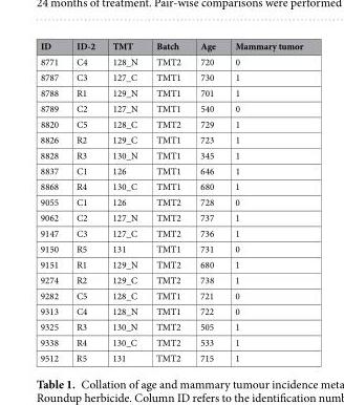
<table><thead><tr><td>ID</td><td>ID-2</td><td>TMT</td><td>Batch</td><td>Age</td><td>Mammary tumor</td></tr></thead><tbody><tr><td>8771</td><td>C4</td><td>128_N</td><td>TMT2</td><td>720</td><td>0</td></tr><tr><td>8787</td><td>C3</td><td>127_C</td><td>TMT1</td><td>730</td><td>1</td></tr><tr><td>8788</td><td>R1</td><td>129_N</td><td>TMT1</td><td>701</td><td>1</td></tr><tr><td>8789</td><td>C2</td><td>127_N</td><td>TMT1</td><td>540</td><td>0</td></tr><tr><td>8820</td><td>C5</td><td>128_C</td><td>TMT2</td><td>729</td><td>1</td></tr><tr><td>8826</td><td>R2</td><td>129_C</td><td>TMT1</td><td>723</td><td>1</td></tr><tr><td>8828</td><td>R3</td><td>130_N</td><td>TMT1</td><td>345</td><td>1</td></tr><tr><td>8837</td><td>C1</td><td>126</td><td>TMT1</td><td>646</td><td>1</td></tr><tr><td>8868</td><td>R4</td><td>130_C</td><td>TMT1</td><td>680</td><td>1</td></tr><tr><td>9055</td><td>C1</td><td>126</td><td>TMT2</td><td>728</td><td>0</td></tr><tr><td>9062</td><td>C2</td><td>127_N</td><td>TMT2</td><td>737</td><td>1</td></tr><tr><td>9147</td><td>C3</td><td>127_C</td><td>TMT2</td><td>736</td><td>1</td></tr><tr><td>9150</td><td>R5</td><td>131</td><td>TMT1</td><td>731</td><td>0</td></tr><tr><td>9151</td><td>R1</td><td>129_N</td><td>TMT2</td><td>680</td><td>1</td></tr><tr><td>9274</td><td>R2</td><td>129_C</td><td>TMT2</td><td>738</td><td>1</td></tr><tr><td>9282</td><td>C5</td><td>128_C</td><td>TMT1</td><td>721</td><td>0</td></tr><tr><td>9313</td><td>C4</td><td>128_N</td><td>TMT1</td><td>722</td><td>0</td></tr><tr><td>9325</td><td>R3</td><td>130_N</td><td>TMT2</td><td>505</td><td>1</td></tr><tr><td>9338</td><td>R4</td><td>130_C</td><td>TMT2</td><td>533</td><td>1</td></tr><tr><td>9512</td><td>R5</td><td>131</td><td>TMT2</td><td>715</td><td>1</td></tr></tbody></table>